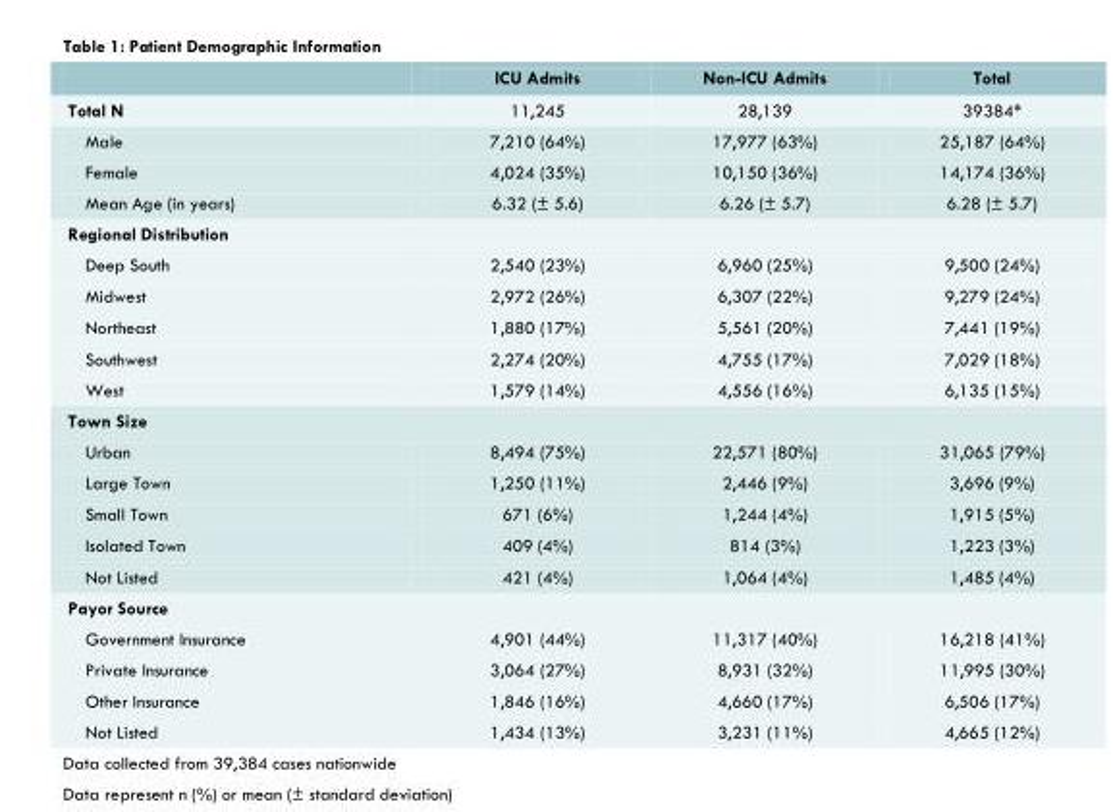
<table><thead><tr><td></td><td>ICU Admits</td><td>Non-ICU Admits</td><td>Total</td></tr></thead><tbody><tr><td>Total N</td><td>11,245</td><td>28,139</td><td>39384*</td></tr><tr><td>Male</td><td>7,210 (64%)</td><td>17,977 (63%)</td><td>25,187 (64%)</td></tr><tr><td>Female</td><td>4,024 (35%)</td><td>10,150 (36%)</td><td>14,174 (36%)</td></tr><tr><td>Mean Age (in years)</td><td>6.32 (± 5.6)</td><td>6.26 (± 5.7)</td><td>6.28 (± 5.7)</td></tr><tr><td colspan="4">Regional Distribution</td></tr><tr><td>Deep South</td><td>2,540 (23%)</td><td>6,960 (25%)</td><td>9,500 (24%)</td></tr><tr><td>Midwest</td><td>2,972 (26%)</td><td>6,307 (22%)</td><td>9,279 (24%)</td></tr><tr><td>Northeast</td><td>1,880 (17%)</td><td>5,561 (20%)</td><td>7,441 (19%)</td></tr><tr><td>Southwest</td><td>2,274 (20%)</td><td>4,755 (17%)</td><td>7,029 (18%)</td></tr><tr><td>West</td><td>1,579 (14%)</td><td>4,556 (16%)</td><td>6,135 (15%)</td></tr><tr><td colspan="4">Town Size</td></tr><tr><td>Urban</td><td>8,494 (75%)</td><td>22,571 (80%)</td><td>31,065 (79%)</td></tr><tr><td>Large Town</td><td>1,250 (11%)</td><td>2,446 (9%)</td><td>3,696 (9%)</td></tr><tr><td>Small Town</td><td>671 (6%)</td><td>1,244 (4%)</td><td>1,915 (5%)</td></tr><tr><td>Isolated Town</td><td>409 (4%)</td><td>814 (3%)</td><td>1,223 (3%)</td></tr><tr><td>Not Listed</td><td>421 (4%)</td><td>1,064 (4%)</td><td>1,485 (4%)</td></tr><tr><td colspan="4">Payor Source</td></tr><tr><td>Government Insurance</td><td>4,901 (44%)</td><td>11,317 (40%)</td><td>16,218 (41%)</td></tr><tr><td>Private Insurance</td><td>3,064 (27%)</td><td>8,931 (32%)</td><td>11,995 (30%)</td></tr><tr><td>Other Insurance</td><td>1,846 (16%)</td><td>4,660 (17%)</td><td>6,506 (17%)</td></tr><tr><td>Not Listed</td><td>1,434 (13%)</td><td>3,231 (11%)</td><td>4,665 (12%)</td></tr></tbody></table>